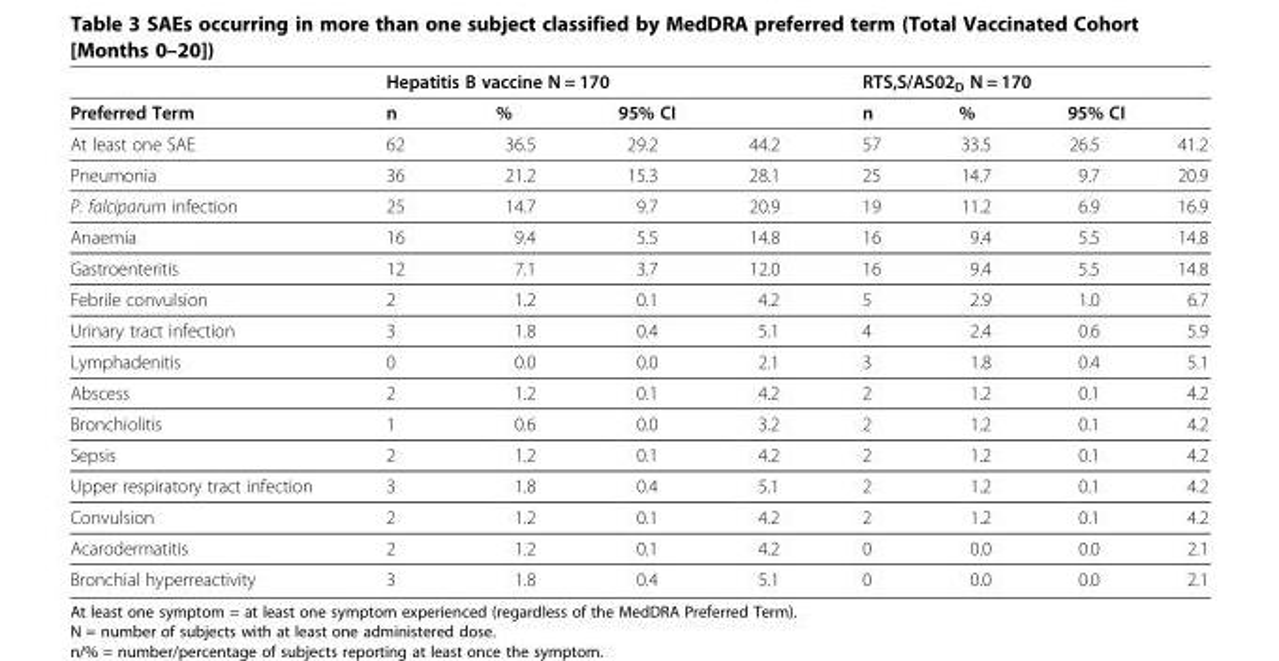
<table><thead><tr><td rowspan="2">Preferred Term</td><td colspan="4">Hepatitis B vaccine N = 170</td><td colspan="4">RTS,S/AS02<sub>D</sub> N = 170</td></tr><tr><td>n</td><td>%</td><td>95% CI</td><td></td><td>n</td><td>%</td><td>95% CI</td><td></td></tr></thead><tbody><tr><td>At least one SAE</td><td>62</td><td>36.5</td><td>29.2</td><td>44.2</td><td>57</td><td>33.5</td><td>26.5</td><td>41.2</td></tr><tr><td>Pneumonia</td><td>36</td><td>21.2</td><td>15.3</td><td>28.1</td><td>25</td><td>14.7</td><td>9.7</td><td>20.9</td></tr><tr><td>P. falciparum infection</td><td>25</td><td>14.7</td><td>9.7</td><td>20.9</td><td>19</td><td>11.2</td><td>6.9</td><td>16.9</td></tr><tr><td>Anaemia</td><td>16</td><td>9.4</td><td>5.5</td><td>14.8</td><td>16</td><td>9.4</td><td>5.5</td><td>14.8</td></tr><tr><td>Gastroenteritis</td><td>12</td><td>7.1</td><td>3.7</td><td>12.0</td><td>16</td><td>9.4</td><td>5.5</td><td>14.8</td></tr><tr><td>Febrile convulsion</td><td>2</td><td>1.2</td><td>0.1</td><td>4.2</td><td>5</td><td>2.9</td><td>1.0</td><td>6.7</td></tr><tr><td>Urinary tract infection</td><td>3</td><td>1.8</td><td>0.4</td><td>5.1</td><td>4</td><td>2.4</td><td>0.6</td><td>5.9</td></tr><tr><td>Lymphadenitis</td><td>0</td><td>0.0</td><td>0.0</td><td>2.1</td><td>3</td><td>1.8</td><td>0.4</td><td>5.1</td></tr><tr><td>Abscess</td><td>2</td><td>1.2</td><td>0.1</td><td>4.2</td><td>2</td><td>1.2</td><td>0.1</td><td>4.2</td></tr><tr><td>Bronchiolitis</td><td>1</td><td>0.6</td><td>0.0</td><td>3.2</td><td>2</td><td>1.2</td><td>0.1</td><td>4.2</td></tr><tr><td>Sepsis</td><td>2</td><td>1.2</td><td>0.1</td><td>4.2</td><td>2</td><td>1.2</td><td>0.1</td><td>4.2</td></tr><tr><td>Upper respiratory tract infection</td><td>3</td><td>1.8</td><td>0.4</td><td>5.1</td><td>2</td><td>1.2</td><td>0.1</td><td>4.2</td></tr><tr><td>Convulsion</td><td>2</td><td>1.2</td><td>0.1</td><td>4.2</td><td>2</td><td>1.2</td><td>0.1</td><td>4.2</td></tr><tr><td>Acarodermatitis</td><td>2</td><td>1.2</td><td>0.1</td><td>4.2</td><td>0</td><td>0.0</td><td>0.0</td><td>2.1</td></tr><tr><td>Bronchial hyperreactivity</td><td>3</td><td>1.8</td><td>0.4</td><td>5.1</td><td>0</td><td>0.0</td><td>0.0</td><td>2.1</td></tr></tbody></table>